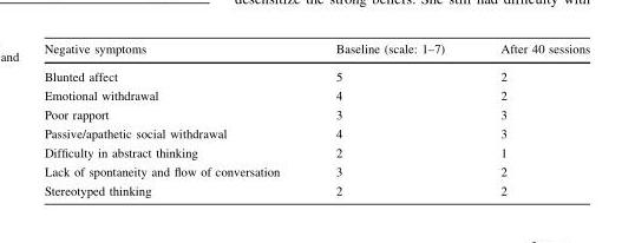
<table><thead><tr><td>Negative symptoms</td><td>Baseline (scale: 1–7)</td><td>After 40 sessions</td></tr></thead><tbody><tr><td>Blunted affect</td><td>5</td><td>2</td></tr><tr><td>Emotional withdrawal</td><td>4</td><td>2</td></tr><tr><td>Poor rapport</td><td>3</td><td>3</td></tr><tr><td>Passive/apathetic social withdrawal</td><td>4</td><td>3</td></tr><tr><td>Difficulty in abstract thinking</td><td>2</td><td>1</td></tr><tr><td>Lack of spontaneity and flow of conversation</td><td>3</td><td>2</td></tr><tr><td>Stereotyped thinking</td><td>2</td><td>2</td></tr></tbody></table>